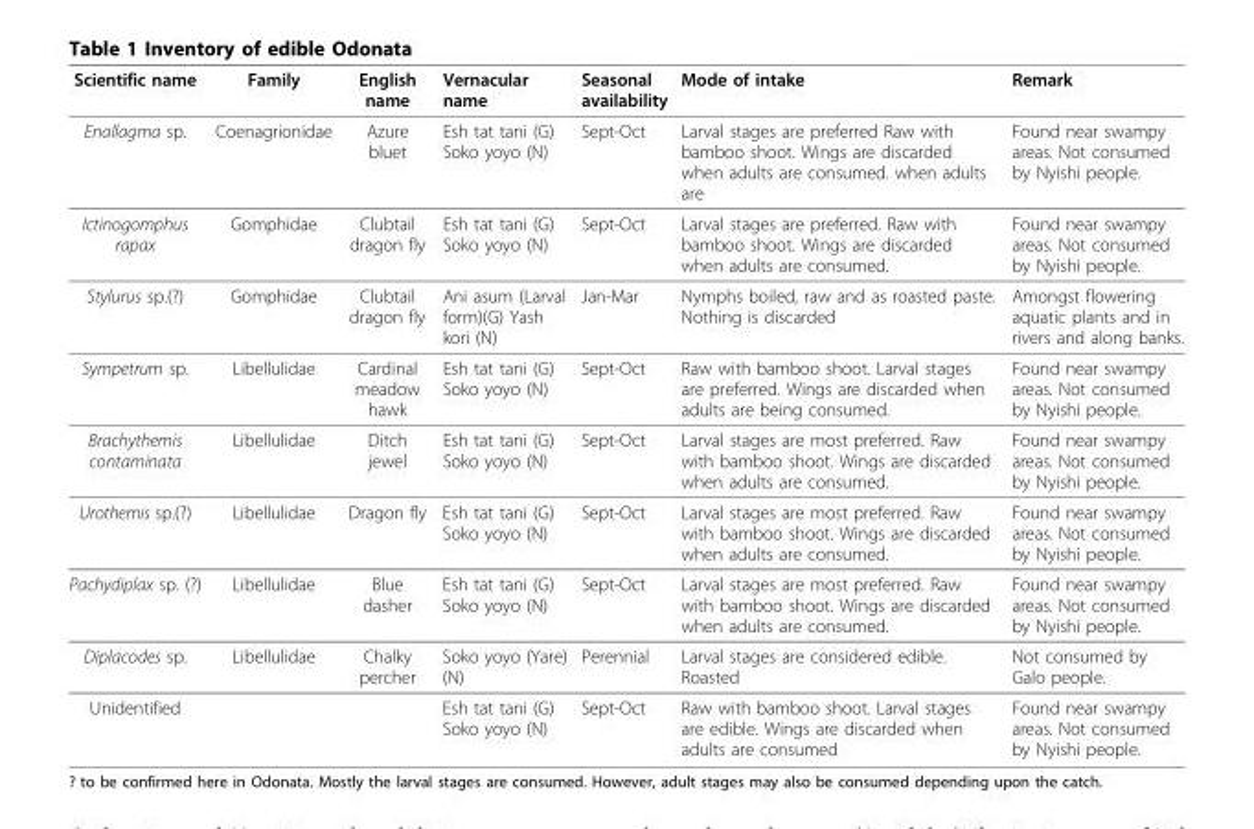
<table><thead><tr><td>Scientific name</td><td>Family</td><td>English name</td><td>Vernacular name</td><td>Seasonal availability</td><td>Mode of intake</td><td>Remark</td></tr></thead><tbody><tr><td>Enallagma sp.</td><td>Coenagrionidae</td><td>Azure bluet</td><td>Esh tat tani (G) Soko yoyo (N)</td><td>Sept-Oct</td><td>Larval stages are preferred Raw with bamboo shoot. Wings are discarded when adults are consumed. when adults are</td><td>Found near swampy areas. Not consumed by Nyishi people.</td></tr><tr><td>Ictinogomphus rapax</td><td>Gomphidae</td><td>Clubtail dragon fly</td><td>Esh tat tani (G) Soko yoyo (N)</td><td>Sept-Oct</td><td>Larval stages are preferred. Raw with bamboo shoot. Wings are discarded when adults are consumed.</td><td>Found near swampy areas. Not consumed by Nyishi people.</td></tr><tr><td>Stylurus sp.(?)</td><td>Gomphidae</td><td>Clubtail dragon fly</td><td>Ani asum (Larval form)(G) Yash kori (N)</td><td>Jan-Mar</td><td>Nymphs boiled, raw and as roasted paste. Nothing is discarded</td><td>Amongst flowering aquatic plants and in rivers and along banks.</td></tr><tr><td>Sympetrum sp.</td><td>Libellulidae</td><td>Cardinal meadow hawk</td><td>Esh tat tani (G) Soko yoyo (N)</td><td>Sept-Oct</td><td>Raw with bamboo shoot. Larval stages are preferred. Wings are discarded when adults are being consumed.</td><td>Found near swampy areas. Not consumed by Nyishi people.</td></tr><tr><td>Brachythemis contaminata</td><td>Libellulidae</td><td>Ditch jewel</td><td>Esh tat tani (G) Soko yoyo (N)</td><td>Sept-Oct</td><td>Larval stages are most preferred. Raw with bamboo shoot. Wings are discarded when adults are consumed.</td><td>Found near swampy areas. Not consumed by Nyishi people.</td></tr><tr><td>Urothemis sp.(?)</td><td>Libellulidae</td><td>Dragon fly</td><td>Esh tat tani (G) Soko yoyo (N)</td><td>Sept-Oct</td><td>Larval stages are most preferred. Raw with bamboo shoot. Wings are discarded when adults are consumed.</td><td>Found near swampy areas. Not consumed by Nyishi people.</td></tr><tr><td>Pachydiplax sp. (?)</td><td>Libellulidae</td><td>Blue dasher</td><td>Esh tat tani (G) Soko yoyo (N)</td><td>Sept-Oct</td><td>Larval stages are most preferred. Raw with bamboo shoot. Wings are discarded when adults are consumed.</td><td>Found near swampy areas. Not consumed by Nyishi people.</td></tr><tr><td>Diplacodes sp.</td><td>Libellulidae</td><td>Chalky percher</td><td>Soko yoyo (Yare) (N)</td><td>Perennial</td><td>Larval stages are considered edible. Roasted</td><td>Not consumed by Galo people.</td></tr><tr><td>Unidentified</td><td></td><td></td><td>Esh tat tani (G) Soko yoyo (N)</td><td>Sept-Oct</td><td>Raw with bamboo shoot. Larval stages are edible. Wings are discarded when adults are consumed</td><td>Found near swampy areas. Not consumed by Nyishi people.</td></tr></tbody></table>